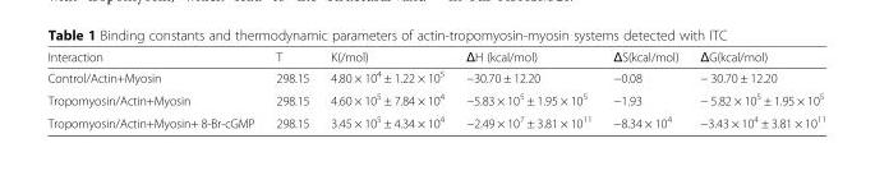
<table><thead><tr><td>Interaction</td><td>T</td><td>K(/mol)</td><td>ΔH (kcal/mol)</td><td>ΔS(kcal/mol)</td><td>ΔG(kcal/mol)</td></tr></thead><tbody><tr><td>Control/Actin+Myosin</td><td>298.15</td><td>4.80 × 10<sup>4</sup> ± 1.22 × 10<sup>5</sup></td><td>−30.70 ± 12.20</td><td>−0.08</td><td>− 30.70 ± 12.20</td></tr><tr><td>Tropomyosin/Actin+Myosin</td><td>298.15</td><td>4.60 × 10<sup>5</sup> ± 7.84 × 10<sup>4</sup></td><td>−5.83 × 10<sup>5</sup> ± 1.95 × 10<sup>5</sup></td><td>−1.93</td><td>− 5.82 × 10<sup>5</sup> ± 1.95 × 10<sup>5</sup></td></tr><tr><td>Tropomyosin/Actin+Myosin+ 8-Br-cGMP</td><td>298.15</td><td>3.45 × 10<sup>5</sup> ± 4.34 × 10<sup>4</sup></td><td>−2.49 × 10<sup>7</sup> ± 3.81 × 10<sup>11</sup></td><td>−8.34 × 10<sup>4</sup></td><td>−3.43 × 10<sup>4</sup> ± 3.81 × 10<sup>11</sup></td></tr></tbody></table>